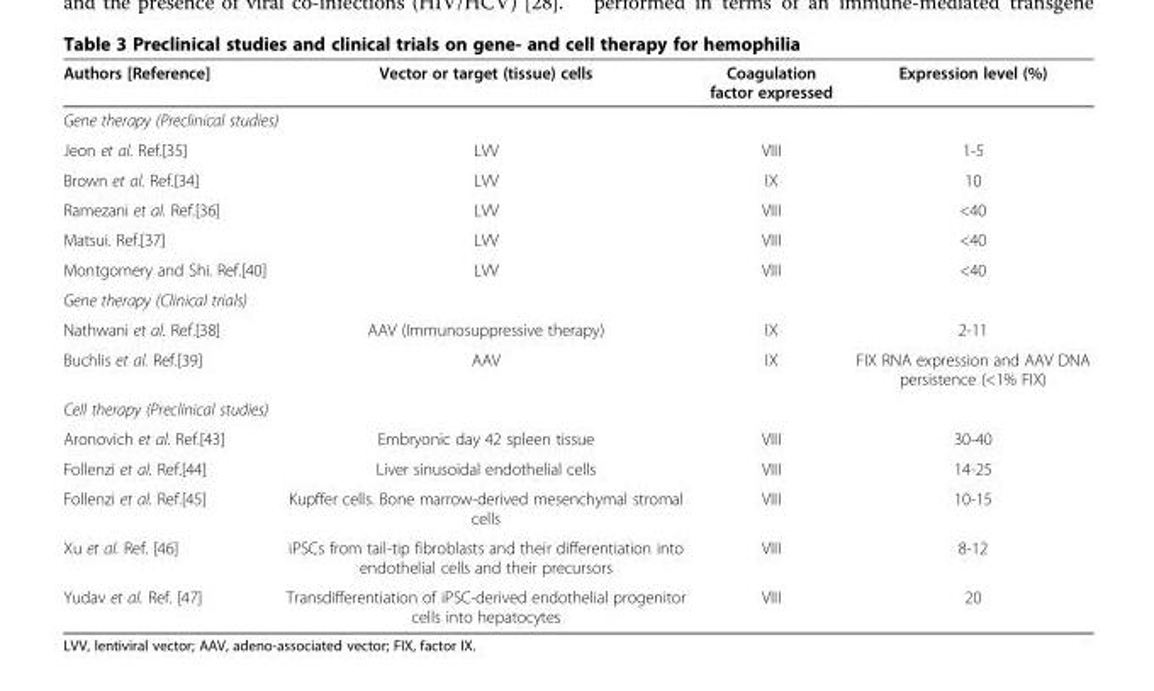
<table><thead><tr><td>Authors [Reference]</td><td>Vector or target (tissue) cells</td><td>Coagulation factor expressed</td><td>Expression level (%)</td></tr></thead><tbody><tr><td colspan="4">Gene therapy (Preclinical studies)</td></tr><tr><td>Jeon et al. Ref.[35]</td><td>LVV</td><td>VIII</td><td>1-5</td></tr><tr><td>Brown et al. Ref.[34]</td><td>LVV</td><td>IX</td><td>10</td></tr><tr><td>Ramezani et al. Ref.[36]</td><td>LVV</td><td>VIII</td><td>&lt;40</td></tr><tr><td>Matsui. Ref.[37]</td><td>LVV</td><td>VIII</td><td>&lt;40</td></tr><tr><td>Montgomery and Shi. Ref.[40]</td><td>LVV</td><td>VIII</td><td>&lt;40</td></tr><tr><td colspan="4">Gene therapy (Clinical trials)</td></tr><tr><td>Nathwani et al. Ref.[38]</td><td>AAV (Immunosuppressive therapy)</td><td>IX</td><td>2-11</td></tr><tr><td>Buchlis et al. Ref.[39]</td><td>AAV</td><td>IX</td><td>FIX RNA expression and AAV DNA persistence (&lt;1% FIX)</td></tr><tr><td colspan="4">Cell therapy (Preclinical studies)</td></tr><tr><td>Aronovich et al. Ref.[43]</td><td>Embryonic day 42 spleen tissue</td><td>VIII</td><td>30-40</td></tr><tr><td>Follenzi et al. Ref.[44]</td><td>Liver sinusoidal endothelial cells</td><td>VIII</td><td>14-25</td></tr><tr><td>Follenzi et al. Ref.[45]</td><td>Kupffer cells. Bone marrow-derived mesenchymal stromal cells</td><td>VIII</td><td>10-15</td></tr><tr><td>Xu et al. Ref. [46]</td><td>iPSCs from tail-tip fibroblasts and their differentiation into endothelial cells and their precursors</td><td>VIII</td><td>8-12</td></tr><tr><td>Yudav et al. Ref. [47]</td><td>Transdifferentiation of iPSC-derived endothelial progenitor cells into hepatocytes</td><td>VIII</td><td>20</td></tr></tbody></table>